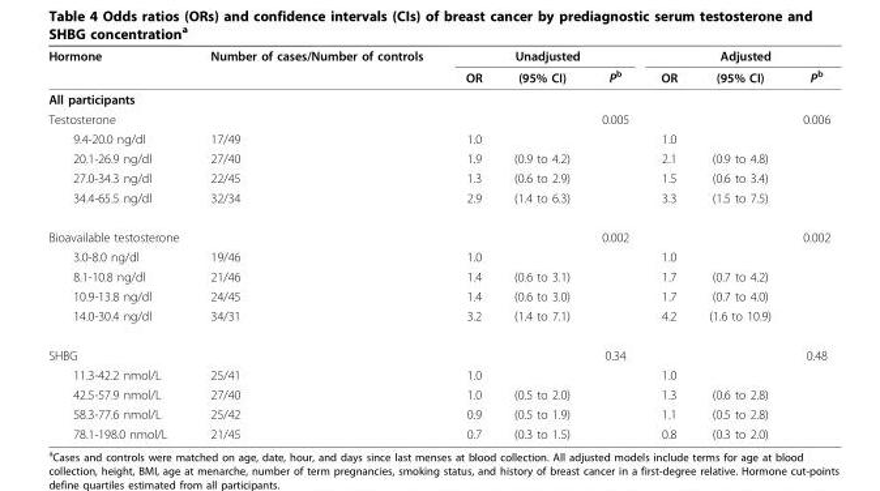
<table><thead><tr><td rowspan="2">Hormone</td><td rowspan="2">Number of cases/Number of controls</td><td colspan="3">Unadjusted</td><td colspan="3">Adjusted</td></tr><tr><td>OR</td><td>(95% CI)</td><td>P<sup>b</sup></td><td>OR</td><td>(95% CI)</td><td>P<sup>b</sup></td></tr></thead><tbody><tr><td colspan="8">All participants</td></tr><tr><td>Testosterone</td><td></td><td></td><td></td><td>0.005</td><td></td><td></td><td>0.006</td></tr><tr><td>9.4-20.0 ng/dl</td><td>17/49</td><td>1.0</td><td></td><td></td><td>1.0</td><td></td><td></td></tr><tr><td>20.1-26.9 ng/dl</td><td>27/40</td><td>1.9</td><td>(0.9 to 4.2)</td><td></td><td>2.1</td><td>(0.9 to 4.8)</td><td></td></tr><tr><td>27.0-34.3 ng/dl</td><td>22/45</td><td>1.3</td><td>(0.6 to 2.9)</td><td></td><td>1.5</td><td>(0.6 to 3.4)</td><td></td></tr><tr><td>34.4-65.5 ng/dl</td><td>32/34</td><td>2.9</td><td>(1.4 to 6.3)</td><td></td><td>3.3</td><td>(1.5 to 7.5)</td><td></td></tr><tr><td>Bioavailable testosterone</td><td></td><td></td><td></td><td>0.002</td><td></td><td></td><td>0.002</td></tr><tr><td>3.0-8.0 ng/dl</td><td>19/46</td><td>1.0</td><td></td><td></td><td>1.0</td><td></td><td></td></tr><tr><td>8.1-10.8 ng/dl</td><td>21/46</td><td>1.4</td><td>(0.6 to 3.1)</td><td></td><td>1.7</td><td>(0.7 to 4.2)</td><td></td></tr><tr><td>10.9-13.8 ng/dl</td><td>24/45</td><td>1.4</td><td>(0.6 to 3.0)</td><td></td><td>1.7</td><td>(0.7 to 4.0)</td><td></td></tr><tr><td>14.0-30.4 ng/dl</td><td>34/31</td><td>3.2</td><td>(1.4 to 7.1)</td><td></td><td>4.2</td><td>(1.6 to 10.9)</td><td></td></tr><tr><td>SHBG</td><td></td><td></td><td></td><td>0.34</td><td></td><td></td><td>0.48</td></tr><tr><td>11.3-42.2 nmol/L</td><td>25/41</td><td>1.0</td><td></td><td></td><td>1.0</td><td></td><td></td></tr><tr><td>42.5-57.9 nmol/L</td><td>27/40</td><td>1.0</td><td>(0.5 to 2.0)</td><td></td><td>1.3</td><td>(0.6 to 2.8)</td><td></td></tr><tr><td>58.3-77.6 nmol/L</td><td>25/42</td><td>0.9</td><td>(0.5 to 1.9)</td><td></td><td>1.1</td><td>(0.5 to 2.8)</td><td></td></tr><tr><td>78.1-198.0 nmol/L</td><td>21/45</td><td>0.7</td><td>(0.3 to 1.5)</td><td></td><td>0.8</td><td>(0.3 to 2.0)</td><td></td></tr></tbody></table>